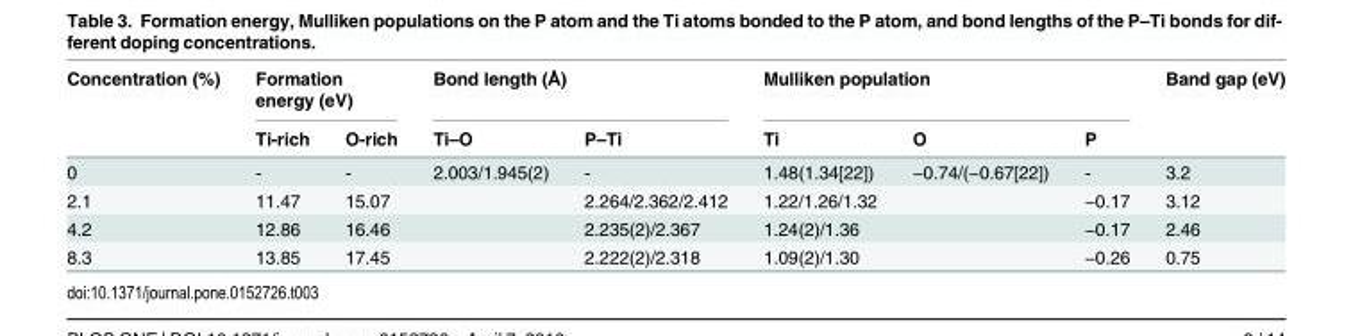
<table><thead><tr><td rowspan="2">Concentration (%)</td><td colspan="2">Formation energy (eV)</td><td colspan="2">Bond length (Å)</td><td colspan="3">Mulliken population</td><td rowspan="2">Band gap (eV)</td></tr><tr><td>Ti-rich</td><td>O-rich</td><td>Ti–O</td><td>P–Ti</td><td>Ti</td><td>O</td><td>P</td></tr></thead><tbody><tr><td>0</td><td>-</td><td>-</td><td>2.003/1.945(2)</td><td>-</td><td>1.48(1.34[22])</td><td>−0.74/(−0.67[22])</td><td>-</td><td>3.2</td></tr><tr><td>2.1</td><td>11.47</td><td>15.07</td><td></td><td>2.264/2.362/2.412</td><td>1.22/1.26/1.32</td><td></td><td>−0.17</td><td>3.12</td></tr><tr><td>4.2</td><td>12.86</td><td>16.46</td><td></td><td>2.235(2)/2.367</td><td>1.24(2)/1.36</td><td></td><td>−0.17</td><td>2.46</td></tr><tr><td>8.3</td><td>13.85</td><td>17.45</td><td></td><td>2.222(2)/2.318</td><td>1.09(2)/1.30</td><td></td><td>−0.26</td><td>0.75</td></tr></tbody></table>